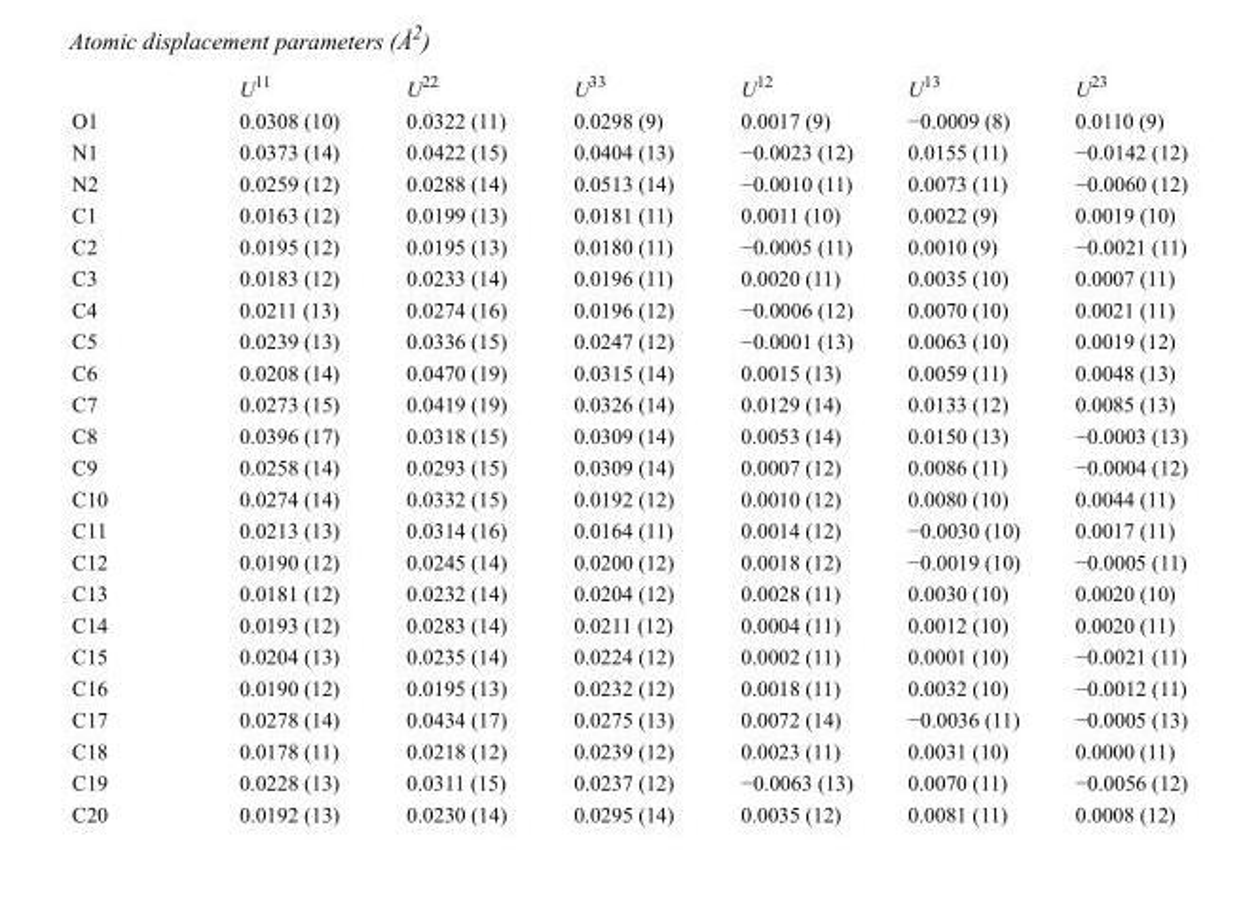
<table><thead><tr><td></td><td>U<sup>11</sup></td><td>U<sup>22</sup></td><td>U<sup>33</sup></td><td>U<sup>12</sup></td><td>U<sup>13</sup></td><td>U<sup>23</sup></td></tr></thead><tbody><tr><td>O1</td><td>0.0308 (10)</td><td>0.0322 (11)</td><td>0.0298 (9)</td><td>0.0017 (9)</td><td>−0.0009 (8)</td><td>0.0110 (9)</td></tr><tr><td>N1</td><td>0.0373 (14)</td><td>0.0422 (15)</td><td>0.0404 (13)</td><td>−0.0023 (12)</td><td>0.0155 (11)</td><td>−0.0142 (12)</td></tr><tr><td>N2</td><td>0.0259 (12)</td><td>0.0288 (14)</td><td>0.0513 (14)</td><td>−0.0010 (11)</td><td>0.0073 (11)</td><td>−0.0060 (12)</td></tr><tr><td>C1</td><td>0.0163 (12)</td><td>0.0199 (13)</td><td>0.0181 (11)</td><td>0.0011 (10)</td><td>0.0022 (9)</td><td>0.0019 (10)</td></tr><tr><td>C2</td><td>0.0195 (12)</td><td>0.0195 (13)</td><td>0.0180 (11)</td><td>−0.0005 (11)</td><td>0.0010 (9)</td><td>−0.0021 (11)</td></tr><tr><td>C3</td><td>0.0183 (12)</td><td>0.0233 (14)</td><td>0.0196 (11)</td><td>0.0020 (11)</td><td>0.0035 (10)</td><td>0.0007 (11)</td></tr><tr><td>C4</td><td>0.0211 (13)</td><td>0.0274 (16)</td><td>0.0196 (12)</td><td>−0.0006 (12)</td><td>0.0070 (10)</td><td>0.0021 (11)</td></tr><tr><td>C5</td><td>0.0239 (13)</td><td>0.0336 (15)</td><td>0.0247 (12)</td><td>−0.0001 (13)</td><td>0.0063 (10)</td><td>0.0019 (12)</td></tr><tr><td>C6</td><td>0.0208 (14)</td><td>0.0470 (19)</td><td>0.0315 (14)</td><td>0.0015 (13)</td><td>0.0059 (11)</td><td>0.0048 (13)</td></tr><tr><td>C7</td><td>0.0273 (15)</td><td>0.0419 (19)</td><td>0.0326 (14)</td><td>0.0129 (14)</td><td>0.0133 (12)</td><td>0.0085 (13)</td></tr><tr><td>C8</td><td>0.0396 (17)</td><td>0.0318 (15)</td><td>0.0309 (14)</td><td>0.0053 (14)</td><td>0.0150 (13)</td><td>−0.0003 (13)</td></tr><tr><td>C9</td><td>0.0258 (14)</td><td>0.0293 (15)</td><td>0.0309 (14)</td><td>0.0007 (12)</td><td>0.0086 (11)</td><td>−0.0004 (12)</td></tr><tr><td>C10</td><td>0.0274 (14)</td><td>0.0332 (15)</td><td>0.0192 (12)</td><td>0.0010 (12)</td><td>0.0080 (10)</td><td>0.0044 (11)</td></tr><tr><td>C11</td><td>0.0213 (13)</td><td>0.0314 (16)</td><td>0.0164 (11)</td><td>0.0014 (12)</td><td>−0.0030 (10)</td><td>0.0017 (11)</td></tr><tr><td>C12</td><td>0.0190 (12)</td><td>0.0245 (14)</td><td>0.0200 (12)</td><td>0.0018 (12)</td><td>−0.0019 (10)</td><td>−0.0005 (11)</td></tr><tr><td>C13</td><td>0.0181 (12)</td><td>0.0232 (14)</td><td>0.0204 (12)</td><td>0.0028 (11)</td><td>0.0030 (10)</td><td>0.0020 (10)</td></tr><tr><td>C14</td><td>0.0193 (12)</td><td>0.0283 (14)</td><td>0.0211 (12)</td><td>0.0004 (11)</td><td>0.0012 (10)</td><td>0.0020 (11)</td></tr><tr><td>C15</td><td>0.0204 (13)</td><td>0.0235 (14)</td><td>0.0224 (12)</td><td>0.0002 (11)</td><td>0.0001 (10)</td><td>−0.0021 (11)</td></tr><tr><td>C16</td><td>0.0190 (12)</td><td>0.0195 (13)</td><td>0.0232 (12)</td><td>0.0018 (11)</td><td>0.0032 (10)</td><td>−0.0012 (11)</td></tr><tr><td>C17</td><td>0.0278 (14)</td><td>0.0434 (17)</td><td>0.0275 (13)</td><td>0.0072 (14)</td><td>−0.0036 (11)</td><td>−0.0005 (13)</td></tr><tr><td>C18</td><td>0.0178 (11)</td><td>0.0218 (12)</td><td>0.0239 (12)</td><td>0.0023 (11)</td><td>0.0031 (10)</td><td>0.0000 (11)</td></tr><tr><td>C19</td><td>0.0228 (13)</td><td>0.0311 (15)</td><td>0.0237 (12)</td><td>−0.0063 (13)</td><td>0.0070 (11)</td><td>−0.0056 (12)</td></tr><tr><td>C20</td><td>0.0192 (13)</td><td>0.0230 (14)</td><td>0.0295 (14)</td><td>0.0035 (12)</td><td>0.0081 (11)</td><td>0.0008 (12)</td></tr></tbody></table>